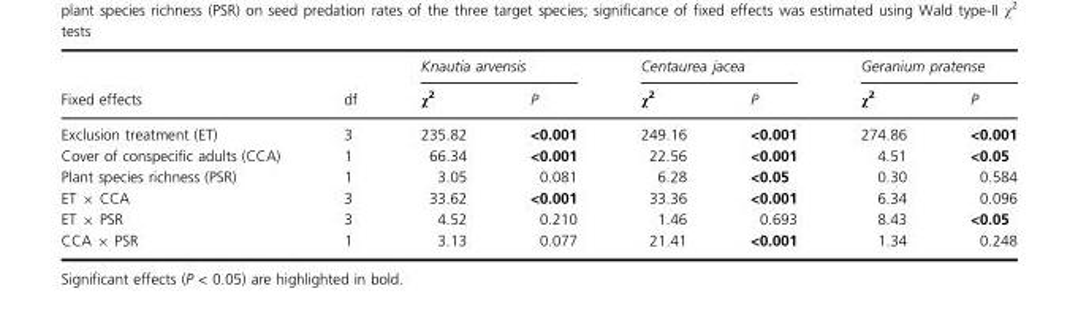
<table><thead><tr><td rowspan="2">Fixed effects</td><td rowspan="2">df</td><td colspan="2">Knautia arvensis</td><td colspan="2">Centaurea jacea</td><td colspan="2">Geranium pratense</td></tr><tr><td>χ<sup>2</sup></td><td>P</td><td>χ<sup>2</sup></td><td>P</td><td>χ<sup>2</sup></td><td>P</td></tr></thead><tbody><tr><td>Exclusion treatment (ET)</td><td>3</td><td>235.82</td><td>&lt;0.001</td><td>249.16</td><td>&lt;0.001</td><td>274.86</td><td>&lt;0.001</td></tr><tr><td>Cover of conspecific adults (CCA)</td><td>1</td><td>66.34</td><td>&lt;0.001</td><td>22.56</td><td>&lt;0.001</td><td>4.51</td><td>&lt;0.05</td></tr><tr><td>Plant species richness (PSR)</td><td>1</td><td>3.05</td><td>0.081</td><td>6.28</td><td>&lt;0.05</td><td>0.30</td><td>0.584</td></tr><tr><td>ET × CCA</td><td>3</td><td>33.62</td><td>&lt;0.001</td><td>33.36</td><td>&lt;0.001</td><td>6.34</td><td>0.096</td></tr><tr><td>ET × PSR</td><td>3</td><td>4.52</td><td>0.210</td><td>1.46</td><td>0.693</td><td>8.43</td><td>&lt;0.05</td></tr><tr><td>CCA × PSR</td><td>1</td><td>3.13</td><td>0.077</td><td>21.41</td><td>&lt;0.001</td><td>1.34</td><td>0.248</td></tr></tbody></table>